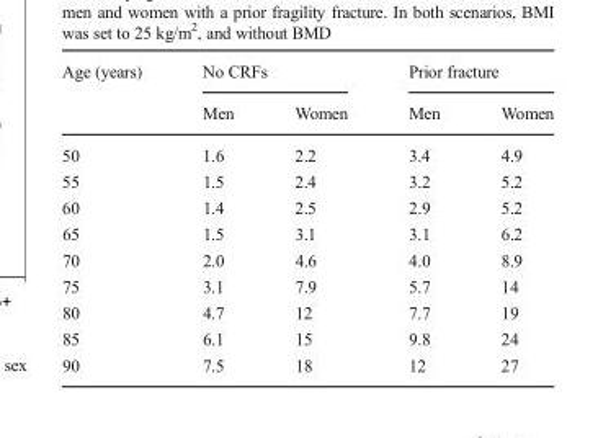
<table><thead><tr><td rowspan="2">Age (years)</td><td colspan="2">No CRFs</td><td colspan="2">Prior fracture</td></tr><tr><td>Men</td><td>Women</td><td>Men</td><td>Women</td></tr></thead><tbody><tr><td>50</td><td>1.6</td><td>2.2</td><td>3.4</td><td>4.9</td></tr><tr><td>55</td><td>1.5</td><td>2.4</td><td>3.2</td><td>5.2</td></tr><tr><td>60</td><td>1.4</td><td>2.5</td><td>2.9</td><td>5.2</td></tr><tr><td>65</td><td>1.5</td><td>3.1</td><td>3.1</td><td>6.2</td></tr><tr><td>70</td><td>2.0</td><td>4.6</td><td>4.0</td><td>8.9</td></tr><tr><td>75</td><td>3.1</td><td>7.9</td><td>5.7</td><td>14</td></tr><tr><td>80</td><td>4.7</td><td>12</td><td>7.7</td><td>19</td></tr><tr><td>85</td><td>6.1</td><td>15</td><td>9.8</td><td>24</td></tr><tr><td>90</td><td>7.5</td><td>18</td><td>12</td><td>27</td></tr></tbody></table>